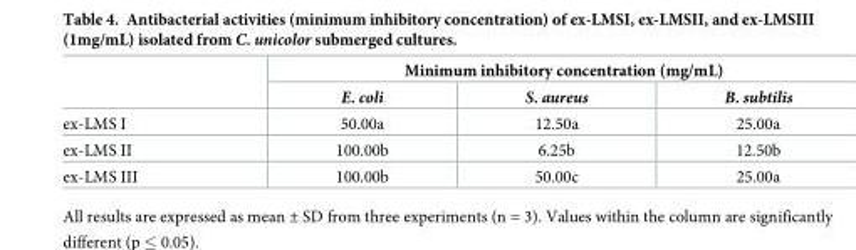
<table><thead><tr><td rowspan="2"></td><td colspan="3">Minimum inhibitory concentration (mg/mL)</td></tr><tr><td>E. coli</td><td>S. aureus</td><td>B. subtilis</td></tr></thead><tbody><tr><td>ex-LMS I</td><td>50.00a</td><td>12.50a</td><td>25.00a</td></tr><tr><td>ex-LMS II</td><td>100.00b</td><td>6.25b</td><td>12.50b</td></tr><tr><td>ex-LMS III</td><td>100.00b</td><td>50.00c</td><td>25.00a</td></tr></tbody></table>